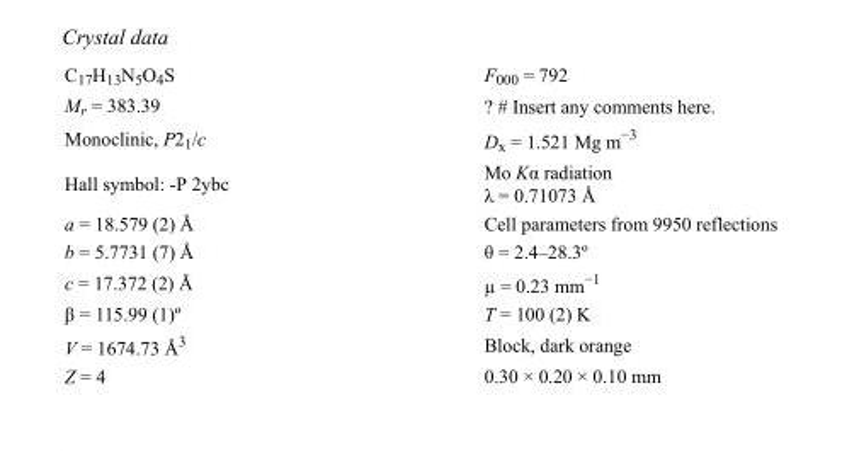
<table><tbody><tr><td>C<sub>17</sub>H<sub>13</sub>N<sub>5</sub>O<sub>4</sub>S</td><td>F<sub>000</sub> = 792</td></tr><tr><td>M<sub>r</sub> = 383.39</td><td>? # Insert any comments here.</td></tr><tr><td>Monoclinic, P2<sub>1</sub>/c</td><td>D<sub>x</sub> = 1.521 Mg m<sup>−3</sup></td></tr><tr><td>Hall symbol: -P 2ybc</td><td>Mo Kα radiation λ = 0.71073 Å</td></tr><tr><td>a = 18.579 (2) Å</td><td>Cell parameters from 9950 reflections</td></tr><tr><td>b = 5.7731 (7) Å</td><td>θ = 2.4–28.3º</td></tr><tr><td>c = 17.372 (2) Å</td><td>µ = 0.23 mm<sup>−1</sup></td></tr><tr><td>β = 115.99 (1)º</td><td>T = 100 (2) K</td></tr><tr><td>V = 1674.73 Å<sup>3</sup></td><td>Block, dark orange</td></tr><tr><td>Z = 4</td><td>0.30 × 0.20 × 0.10 mm</td></tr></tbody></table>